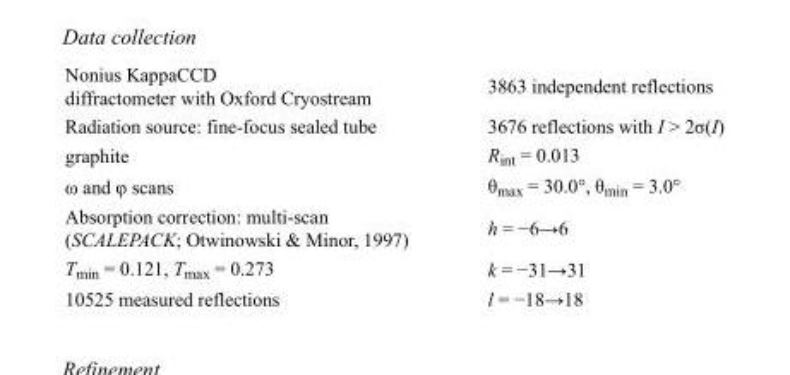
<table><tbody><tr><td>Nonius KappaCCD diffractometer with Oxford Cryostream</td><td>3863 independent reflections</td></tr><tr><td>Radiation source: fine-focus sealed tube</td><td>3676 reflections with I &gt; 2σ(I)</td></tr><tr><td>graphite</td><td>R<sub>int</sub> = 0.013</td></tr><tr><td>ω and φ scans</td><td>θ<sub>max</sub> = 30.0°, θ<sub>min</sub> = 3.0°</td></tr><tr><td>Absorption correction: multi-scan (SCALEPACK; Otwinowski &amp; Minor, 1997)</td><td>h = −6→6</td></tr><tr><td>T<sub>min</sub> = 0.121, T<sub>max</sub> = 0.273</td><td>k = −31→31</td></tr><tr><td>10525 measured reflections</td><td>l = −18→18</td></tr></tbody></table>